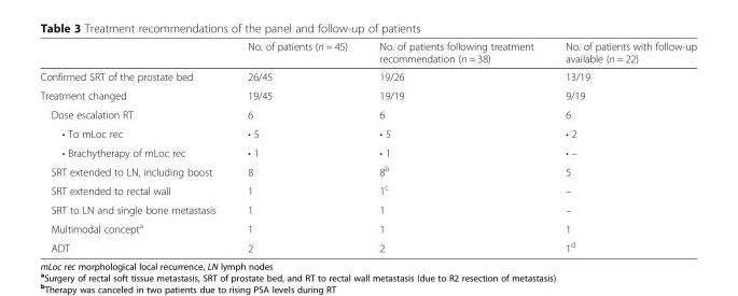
<table><thead><tr><td></td><td>No. of patients (n = 45)</td><td>No. of patients following treatment recommendation (n = 38)</td><td>No. of patients with follow-up available (n = 22)</td></tr></thead><tbody><tr><td>Confirmed SRT of the prostate bed</td><td>26/45</td><td>19/26</td><td>13/19</td></tr><tr><td>Treatment changed</td><td>19/45</td><td>19/19</td><td>9/19</td></tr><tr><td>Dose escalation RT</td><td>6</td><td>6</td><td>6</td></tr><tr><td>• To mLoc rec</td><td>• 5</td><td>• 5</td><td>• 2</td></tr><tr><td>• Brachytherapy of mLoc rec</td><td>• 1</td><td>• 1</td><td>• –</td></tr><tr><td>SRT extended to LN, including boost</td><td>8</td><td>8<sup>b</sup></td><td>5</td></tr><tr><td>SRT extended to rectal wall</td><td>1</td><td>1<sup>c</sup></td><td>–</td></tr><tr><td>SRT to LN and single bone metastasis</td><td>1</td><td>1</td><td>–</td></tr><tr><td>Multimodal concept<sup>a</sup></td><td>1</td><td>1</td><td>1</td></tr><tr><td>ADT</td><td>2</td><td>2</td><td>1<sup>d</sup></td></tr></tbody></table>